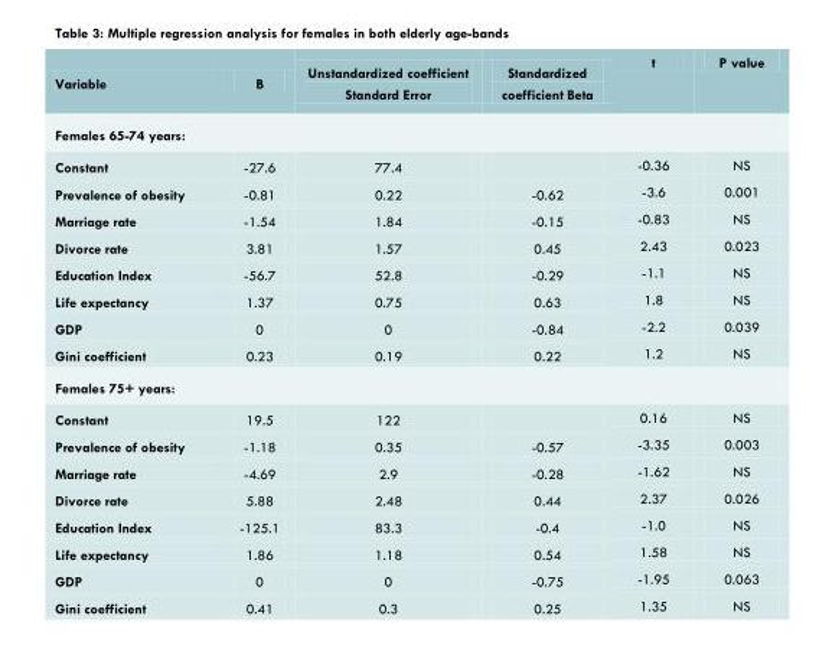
<table><thead><tr><td>Variable</td><td>B</td><td>Unstandardized coefficient Standard Error</td><td>Standardized coefficient Beta</td><td>t</td><td>P value</td></tr></thead><tbody><tr><td colspan="6">Females 65-74 years:</td></tr><tr><td>Constant</td><td>-27.6</td><td>77.4</td><td></td><td>-0.36</td><td>NS</td></tr><tr><td>Prevalence of obesity</td><td>-0.81</td><td>0.22</td><td>-0.62</td><td>-3.6</td><td>0.001</td></tr><tr><td>Marriage rate</td><td>-1.54</td><td>1.84</td><td>-0.15</td><td>-0.83</td><td>NS</td></tr><tr><td>Divorce rate</td><td>3.81</td><td>1.57</td><td>0.45</td><td>2.43</td><td>0.023</td></tr><tr><td>Education Index</td><td>-56.7</td><td>52.8</td><td>-0.29</td><td>-1.1</td><td>NS</td></tr><tr><td>Life expectancy</td><td>1.37</td><td>0.75</td><td>0.63</td><td>1.8</td><td>NS</td></tr><tr><td>GDP</td><td>0</td><td>0</td><td>-0.84</td><td>-2.2</td><td>0.039</td></tr><tr><td>Gini coefficient</td><td>0.23</td><td>0.19</td><td>0.22</td><td>1.2</td><td>NS</td></tr><tr><td colspan="6">Females 75+ years:</td></tr><tr><td>Constant</td><td>19.5</td><td>122</td><td></td><td>0.16</td><td>NS</td></tr><tr><td>Prevalence of obesity</td><td>-1.18</td><td>0.35</td><td>-0.57</td><td>-3.35</td><td>0.003</td></tr><tr><td>Marriage rate</td><td>-4.69</td><td>2.9</td><td>-0.28</td><td>-1.62</td><td>NS</td></tr><tr><td>Divorce rate</td><td>5.88</td><td>2.48</td><td>0.44</td><td>2.37</td><td>0.026</td></tr><tr><td>Education Index</td><td>-125.1</td><td>83.3</td><td>-0.4</td><td>-1.0</td><td>NS</td></tr><tr><td>Life expectancy</td><td>1.86</td><td>1.18</td><td>0.54</td><td>1.58</td><td>NS</td></tr><tr><td>GDP</td><td>0</td><td>0</td><td>-0.75</td><td>-1.95</td><td>0.063</td></tr><tr><td>Gini coefficient</td><td>0.41</td><td>0.3</td><td>0.25</td><td>1.35</td><td>NS</td></tr></tbody></table>